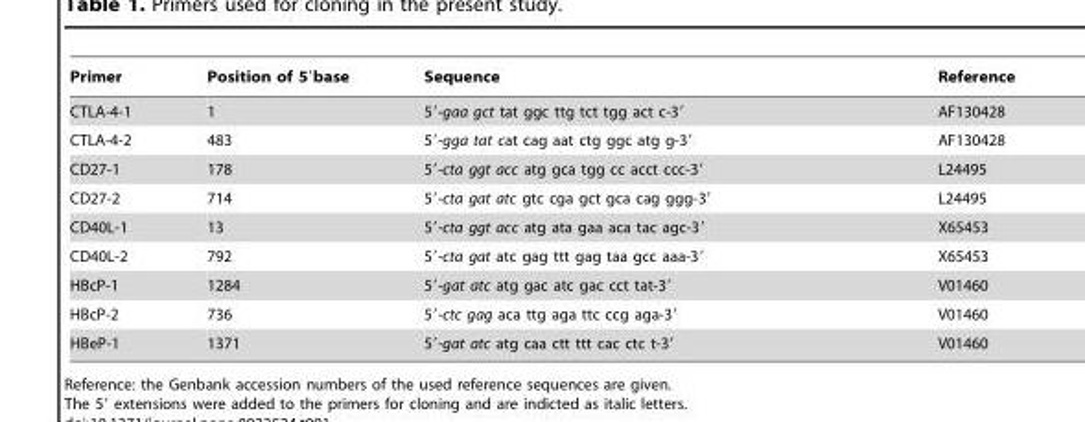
<table><thead><tr><td>Primer</td><td>Position of 5′base</td><td>Sequence</td><td>Reference</td></tr></thead><tbody><tr><td>CTLA-4-1</td><td>1</td><td>5′-gaa gct tat ggc ttg tct tgg act c-3′</td><td>AF130428</td></tr><tr><td>CTLA-4-2</td><td>483</td><td>5′-gga tat cat cag aat ctg ggc atg g-3′</td><td>AF130428</td></tr><tr><td>CD27-1</td><td>178</td><td>5′-cta ggt acc atg gca tgg cc acct ccc-3′</td><td>L24495</td></tr><tr><td>CD27-2</td><td>714</td><td>5′-cta gat atc gtc cga gct gca cag ggg-3′</td><td>L24495</td></tr><tr><td>CD40L-1</td><td>13</td><td>5′-cta ggt acc atg ata gaa aca tac agc-3′</td><td>X65453</td></tr><tr><td>CD40L-2</td><td>792</td><td>5′-cta gat atc gag ttt gag taa gcc aaa-3′</td><td>X65453</td></tr><tr><td>HBcP-1</td><td>1284</td><td>5′-gat atc atg gac atc gac cct tat-3′</td><td>V01460</td></tr><tr><td>HBcP-2</td><td>736</td><td>5′-ctc gag aca ttg aga ttc ccg aga-3′</td><td>V01460</td></tr><tr><td>HBeP-1</td><td>1371</td><td>5′-gat atc atg caa ctt ttt cac ctc t-3′</td><td>V01460</td></tr></tbody></table>